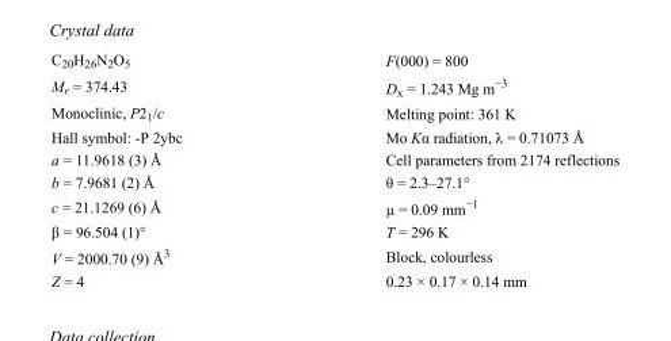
<table><tbody><tr><td>C<sub>20</sub>H<sub>26</sub>N<sub>2</sub>O<sub>5</sub></td><td>F(000) = 800</td></tr><tr><td>M<sub>r</sub> = 374.43</td><td>D<sub>x</sub> = 1.243 Mg m<sup>−3</sup></td></tr><tr><td>Monoclinic, P2<sub>1</sub>/c</td><td>Melting point: 361 K</td></tr><tr><td>Hall symbol: -P 2ybc</td><td>Mo Kα radiation, λ = 0.71073 Å</td></tr><tr><td>a = 11.9618 (3) Å</td><td>Cell parameters from 2174 reflections</td></tr><tr><td>b = 7.9681 (2) Å</td><td>θ = 2.3–27.1°</td></tr><tr><td>c = 21.1269 (6) Å</td><td>µ = 0.09 mm<sup>−1</sup></td></tr><tr><td>β = 96.504 (1)°</td><td>T = 296 K</td></tr><tr><td>V = 2000.70 (9) Å<sup>3</sup></td><td>Block, colourless</td></tr><tr><td>Z = 4</td><td>0.23 × 0.17 × 0.14 mm</td></tr></tbody></table>